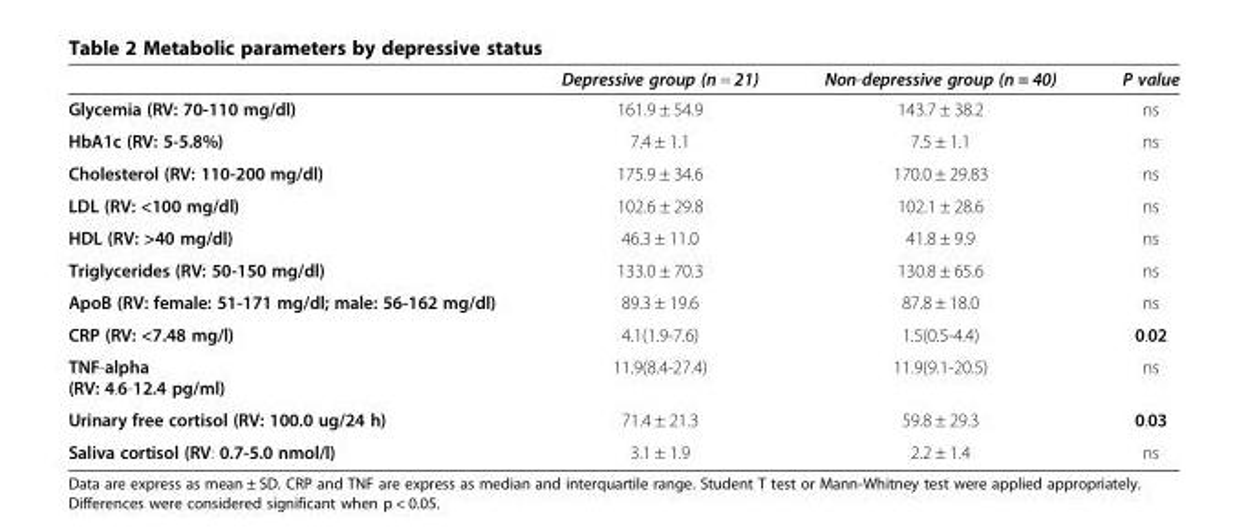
<table><thead><tr><td></td><td>Depressive group (n = 21)</td><td>Non-depressive group (n = 40)</td><td>P value</td></tr></thead><tbody><tr><td>Glycemia (RV: 70-110 mg/dl)</td><td>161.9 ± 54.9</td><td>143.7 ± 38.2</td><td>ns</td></tr><tr><td>HbA1c (RV: 5-5.8%)</td><td>7.4 ± 1.1</td><td>7.5 ± 1.1</td><td>ns</td></tr><tr><td>Cholesterol (RV: 110-200 mg/dl)</td><td>175.9 ± 34.6</td><td>170.0 ± 29.83</td><td>ns</td></tr><tr><td>LDL (RV: &lt;100 mg/dl)</td><td>102.6 ± 29.8</td><td>102.1 ± 28.6</td><td>ns</td></tr><tr><td>HDL (RV: &gt;40 mg/dl)</td><td>46.3 ± 11.0</td><td>41.8 ± 9.9</td><td>ns</td></tr><tr><td>Triglycerides (RV: 50-150 mg/dl)</td><td>133.0 ± 70.3</td><td>130.8 ± 65.6</td><td>ns</td></tr><tr><td>ApoB (RV: female: 51-171 mg/dl; male: 56-162 mg/dl)</td><td>89.3 ± 19.6</td><td>87.8 ± 18.0</td><td>ns</td></tr><tr><td>CRP (RV: &lt;7.48 mg/l)</td><td>4.1(1.9-7.6)</td><td>1.5(0.5-4.4)</td><td>0.02</td></tr><tr><td>TNF-alpha (RV: 4.6-12.4 pg/ml)</td><td>11.9(8.4-27.4)</td><td>11.9(9.1-20.5)</td><td>ns</td></tr><tr><td>Urinary free cortisol (RV: 100.0 ug/24 h)</td><td>71.4 ± 21.3</td><td>59.8 ± 29.3</td><td>0.03</td></tr><tr><td>Saliva cortisol (RV: 0.7-5.0 nmol/l)</td><td>3.1 ± 1.9</td><td>2.2 ± 1.4</td><td>ns</td></tr></tbody></table>